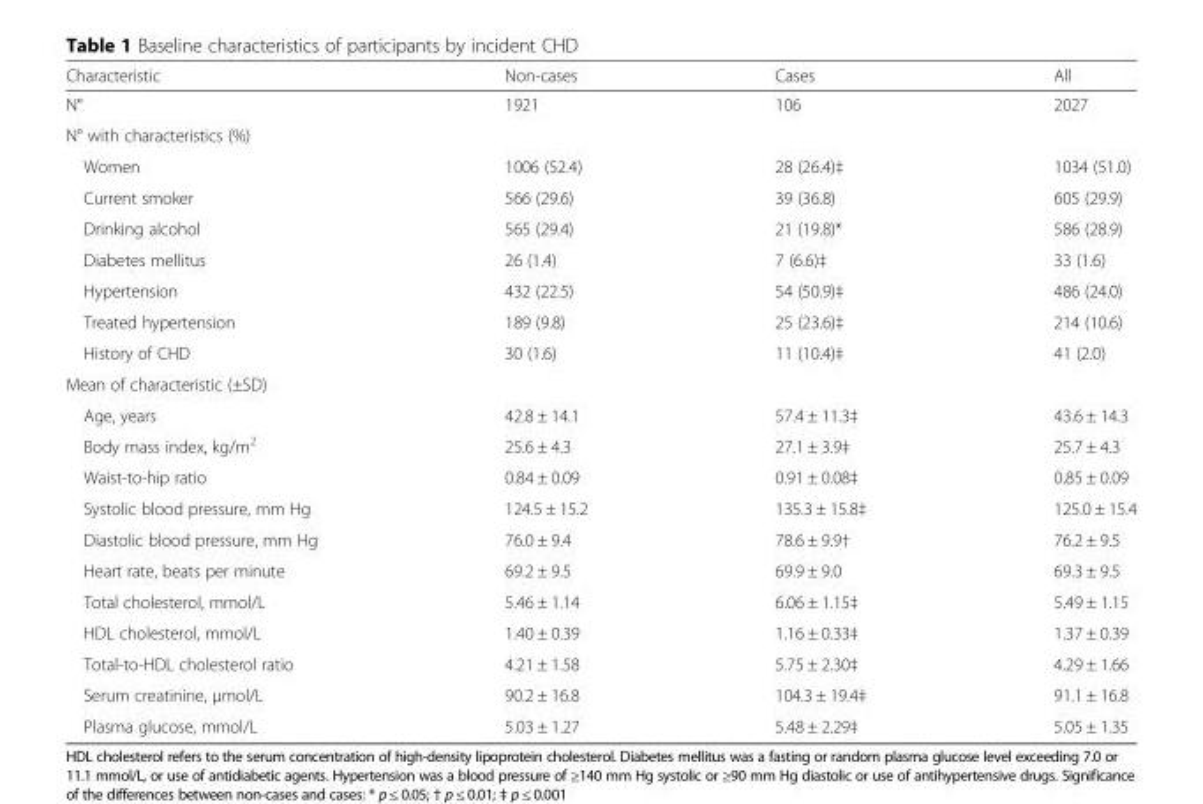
<table><thead><tr><td>Characteristic</td><td>Non-cases</td><td>Cases</td><td>All</td></tr></thead><tbody><tr><td>N°</td><td>1921</td><td>106</td><td>2027</td></tr><tr><td colspan="4">N° with characteristics (%)</td></tr><tr><td>Women</td><td>1006 (52.4)</td><td>28 (26.4)‡</td><td>1034 (51.0)</td></tr><tr><td>Current smoker</td><td>566 (29.6)</td><td>39 (36.8)</td><td>605 (29.9)</td></tr><tr><td>Drinking alcohol</td><td>565 (29.4)</td><td>21 (19.8)*</td><td>586 (28.9)</td></tr><tr><td>Diabetes mellitus</td><td>26 (1.4)</td><td>7 (6.6)‡</td><td>33 (1.6)</td></tr><tr><td>Hypertension</td><td>432 (22.5)</td><td>54 (50.9)‡</td><td>486 (24.0)</td></tr><tr><td>Treated hypertension</td><td>189 (9.8)</td><td>25 (23.6)‡</td><td>214 (10.6)</td></tr><tr><td>History of CHD</td><td>30 (1.6)</td><td>11 (10.4)‡</td><td>41 (2.0)</td></tr><tr><td colspan="4">Mean of characteristic (±SD)</td></tr><tr><td>Age, years</td><td>42.8 ± 14.1</td><td>57.4 ± 11.3‡</td><td>43.6 ± 14.3</td></tr><tr><td>Body mass index, kg/m<sup>2</sup></td><td>25.6 ± 4.3</td><td>27.1 ± 3.9‡</td><td>25.7 ± 4.3</td></tr><tr><td>Waist-to-hip ratio</td><td>0.84 ± 0.09</td><td>0.91 ± 0.08‡</td><td>0.85 ± 0.09</td></tr><tr><td>Systolic blood pressure, mm Hg</td><td>124.5 ± 15.2</td><td>135.3 ± 15.8‡</td><td>125.0 ± 15.4</td></tr><tr><td>Diastolic blood pressure, mm Hg</td><td>76.0 ± 9.4</td><td>78.6 ± 9.9†</td><td>76.2 ± 9.5</td></tr><tr><td>Heart rate, beats per minute</td><td>69.2 ± 9.5</td><td>69.9 ± 9.0</td><td>69.3 ± 9.5</td></tr><tr><td>Total cholesterol, mmol/L</td><td>5.46 ± 1.14</td><td>6.06 ± 1.15‡</td><td>5.49 ± 1.15</td></tr><tr><td>HDL cholesterol, mmol/L</td><td>1.40 ± 0.39</td><td>1.16 ± 0.33‡</td><td>1.37 ± 0.39</td></tr><tr><td>Total-to-HDL cholesterol ratio</td><td>4.21 ± 1.58</td><td>5.75 ± 2.30‡</td><td>4.29 ± 1.66</td></tr><tr><td>Serum creatinine, μmol/L</td><td>90.2 ± 16.8</td><td>104.3 ± 19.4‡</td><td>91.1 ± 16.8</td></tr><tr><td>Plasma glucose, mmol/L</td><td>5.03 ± 1.27</td><td>5.48 ± 2.29‡</td><td>5.05 ± 1.35</td></tr></tbody></table>